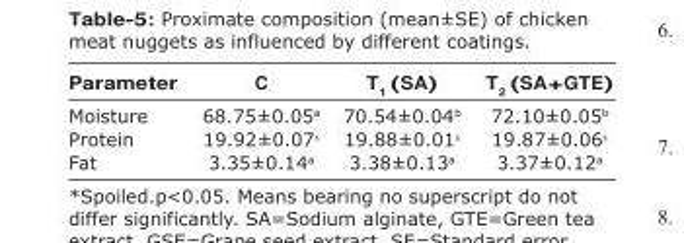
<table><thead><tr><td>Parameter</td><td>C</td><td>T<sub>1</sub> (SA)</td><td>T<sub>2</sub> (SA+GTE)</td></tr></thead><tbody><tr><td>Moisture</td><td>68.75±0.05<sup>a</sup></td><td>70.54±0.04<sup>b</sup></td><td>72.10±0.05<sup>b</sup></td></tr><tr><td>Protein</td><td>19.92±0.07<sup>x</sup></td><td>19.88±0.01<sup>x</sup></td><td>19.87±0.06<sup>x</sup></td></tr><tr><td>Fat</td><td>3.35±0.14<sup>a</sup></td><td>3.38±0.13<sup>a</sup></td><td>3.37±0.12<sup>a</sup></td></tr></tbody></table>